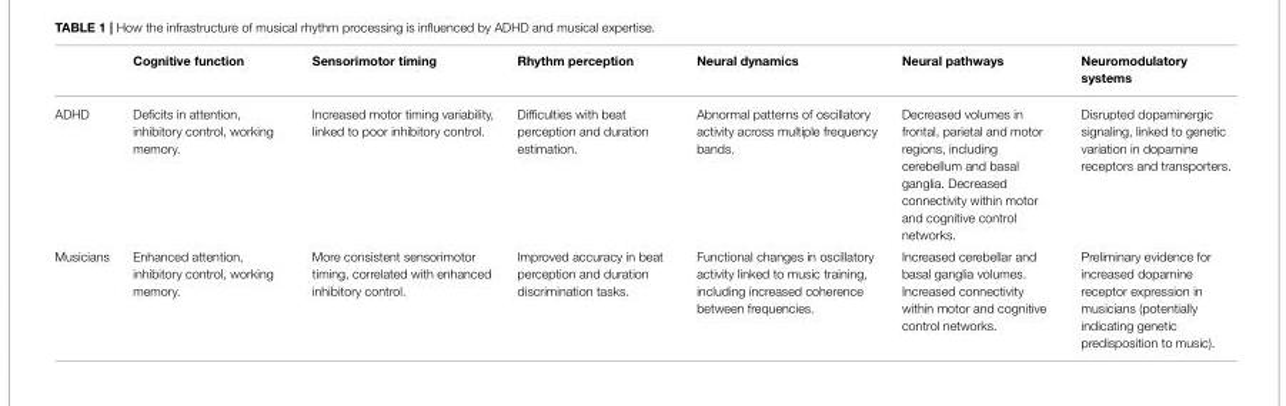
<table><thead><tr><td></td><td>Cognitive function</td><td>Sensorimotor timing</td><td>Rhythm perception</td><td>Neural dynamics</td><td>Neural pathways</td><td>Neuromodulatory systems</td></tr></thead><tbody><tr><td>ADHD</td><td>Deficits in attention, inhibitory control, working memory.</td><td>Increased motor timing variability, linked to poor inhibitory control.</td><td>Difficulties with beat perception and duration estimation.</td><td>Abnormal patterns of oscillatory activity across multiple frequency bands.</td><td>Decreased volumes in frontal, parietal and motor regions, including cerebellum and basal ganglia. Decreased connectivity within motor and cognitive control networks.</td><td>Disrupted dopaminergic signaling, linked to genetic variation in dopamine receptors and transporters.</td></tr><tr><td>Musicians</td><td>Enhanced attention, inhibitory control, working memory.</td><td>More consistent sensorimotor timing, correlated with enhanced inhibitory control.</td><td>Improved accuracy in beat perception and duration discrimination tasks.</td><td>Functional changes in oscillatory activity linked to music training, including increased coherence between frequencies.</td><td>Increased cerebellar and basal ganglia volumes. Increased connectivity within motor and cognitive control networks.</td><td>Preliminary evidence for increased dopamine receptor expression in musicians (potentially indicating genetic predisposition to music).</td></tr></tbody></table>